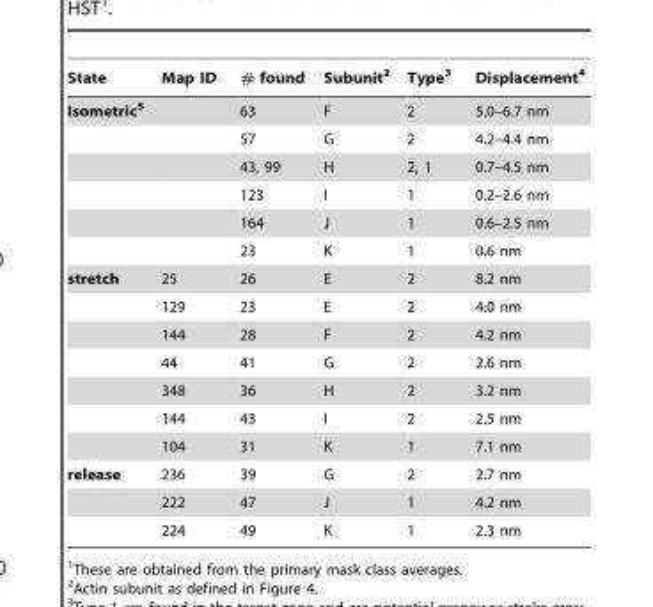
<table><thead><tr><td>State</td><td>Map ID</td><td># found</td><td>Subunit<sup>2</sup></td><td>Type<sup>3</sup></td><td>Displacement<sup>4</sup></td></tr></thead><tbody><tr><td rowspan="6">Isometric5</td><td></td><td>63</td><td>F</td><td>2</td><td>5.0–6.7 nm</td></tr><tr><td></td><td>57</td><td>G</td><td>2</td><td>4.2–4.4 nm</td></tr><tr><td></td><td>43, 99</td><td>H</td><td>2, 1</td><td>0.7–4.5 nm</td></tr><tr><td></td><td>123</td><td>I</td><td>1</td><td>0.2–2.6 nm</td></tr><tr><td></td><td>164</td><td>J</td><td>1</td><td>0.6–2.5 nm</td></tr><tr><td></td><td>23</td><td>K</td><td>1</td><td>0.6 nm</td></tr><tr><td rowspan="7">stretch</td><td>25</td><td>26</td><td>E</td><td>2</td><td>8.2 nm</td></tr><tr><td>129</td><td>23</td><td>E</td><td>2</td><td>4.0 nm</td></tr><tr><td>144</td><td>28</td><td>F</td><td>2</td><td>4.2 nm</td></tr><tr><td>44</td><td>41</td><td>G</td><td>2</td><td>2.6 nm</td></tr><tr><td>348</td><td>36</td><td>H</td><td>2</td><td>3.2 nm</td></tr><tr><td>144</td><td>43</td><td>I</td><td>2</td><td>2.5 nm</td></tr><tr><td>104</td><td>31</td><td>K</td><td>1</td><td>7.1 nm</td></tr><tr><td rowspan="3">release</td><td>236</td><td>39</td><td>G</td><td>2</td><td>2.7 nm</td></tr><tr><td>222</td><td>47</td><td>J</td><td>1</td><td>4.2 nm</td></tr><tr><td>224</td><td>49</td><td>K</td><td>1</td><td>2.3 nm</td></tr></tbody></table>